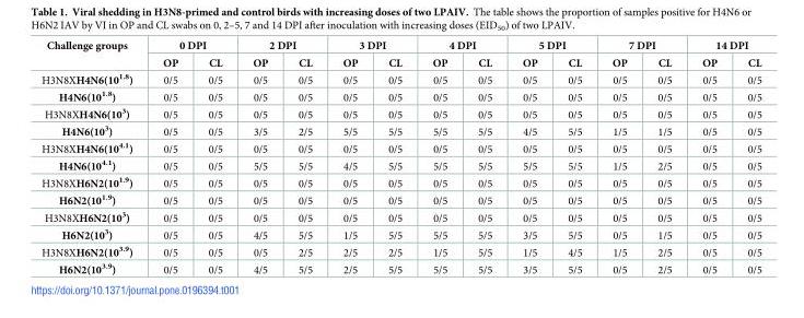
<table><thead><tr><td rowspan="2">Challenge groups</td><td colspan="2">0 DPI</td><td colspan="2">2 DPI</td><td colspan="2">3 DPI</td><td colspan="2">4 DPI</td><td colspan="2">5 DPI</td><td colspan="2">7 DPI</td><td colspan="2">14 DPI</td></tr><tr><td>OP</td><td>CL</td><td>OP</td><td>CL</td><td>OP</td><td>CL</td><td>OP</td><td>CL</td><td>OP</td><td>CL</td><td>OP</td><td>CL</td><td>OP</td><td>CL</td></tr></thead><tbody><tr><td>H3N8XH4N6(10<sup>1.8</sup>)</td><td>0/5</td><td>0/5</td><td>0/5</td><td>0/5</td><td>0/5</td><td>0/5</td><td>0/5</td><td>0/5</td><td>0/5</td><td>0/5</td><td>0/5</td><td>0/5</td><td>0/5</td><td>0/5</td></tr><tr><td>H4N6(10<sup>1.8</sup>)</td><td>0/5</td><td>0/5</td><td>0/5</td><td>0/5</td><td>0/5</td><td>0/5</td><td>0/5</td><td>0/5</td><td>0/5</td><td>0/5</td><td>0/5</td><td>0/5</td><td>0/5</td><td>0/5</td></tr><tr><td>H3N8XH4N6(10<sup>3</sup>)</td><td>0/5</td><td>0/5</td><td>0/5</td><td>0/5</td><td>0/5</td><td>0/5</td><td>0/5</td><td>0/5</td><td>0/5</td><td>0/5</td><td>0/5</td><td>0/5</td><td>0/5</td><td>0/5</td></tr><tr><td>H4N6(10<sup>3</sup>)</td><td>0/5</td><td>0/5</td><td>3/5</td><td>2/5</td><td>5/5</td><td>5/5</td><td>5/5</td><td>5/5</td><td>4/5</td><td>5/5</td><td>1/5</td><td>1/5</td><td>0/5</td><td>0/5</td></tr><tr><td>H3N8XH4N6(10<sup>4.1</sup>)</td><td>0/5</td><td>0/5</td><td>0/5</td><td>0/5</td><td>0/5</td><td>0/5</td><td>0/5</td><td>0/5</td><td>0/5</td><td>0/5</td><td>0/5</td><td>0/5</td><td>0/5</td><td>0/5</td></tr><tr><td>H4N6(10<sup>4.1</sup>)</td><td>0/5</td><td>0/5</td><td>5/5</td><td>5/5</td><td>4/5</td><td>5/5</td><td>5/5</td><td>5/5</td><td>5/5</td><td>5/5</td><td>1/5</td><td>2/5</td><td>0/5</td><td>0/5</td></tr><tr><td>H3N8XH6N2(10<sup>1.9</sup>)</td><td>0/5</td><td>0/5</td><td>0/5</td><td>0/5</td><td>0/5</td><td>0/5</td><td>0/5</td><td>0/5</td><td>0/5</td><td>0/5</td><td>0/5</td><td>0/5</td><td>0/5</td><td>0/5</td></tr><tr><td>H6N2(10<sup>1.9</sup>)</td><td>0/5</td><td>0/5</td><td>0/5</td><td>0/5</td><td>0/5</td><td>0/5</td><td>0/5</td><td>0/5</td><td>0/5</td><td>0/5</td><td>0/5</td><td>0/5</td><td>0/5</td><td>0/5</td></tr><tr><td>H3N8XH6N2(10<sup>3</sup>)</td><td>0/5</td><td>0/5</td><td>0/5</td><td>0/5</td><td>0/5</td><td>0/5</td><td>0/5</td><td>0/5</td><td>0/5</td><td>0/5</td><td>0/5</td><td>0/5</td><td>0/5</td><td>0/5</td></tr><tr><td>H6N2(10<sup>3</sup>)</td><td>0/5</td><td>0/5</td><td>4/5</td><td>5/5</td><td>1/5</td><td>5/5</td><td>5/5</td><td>5/5</td><td>3/5</td><td>5/5</td><td>0/5</td><td>1/5</td><td>0/5</td><td>0/5</td></tr><tr><td>H3N8XH6N2(10<sup>3.9</sup>)</td><td>0/5</td><td>0/5</td><td>0/5</td><td>2/5</td><td>2/5</td><td>2/5</td><td>1/5</td><td>5/5</td><td>1/5</td><td>4/5</td><td>1/5</td><td>2/5</td><td>0/5</td><td>0/5</td></tr><tr><td>H6N2(10<sup>3.9</sup>)</td><td>0/5</td><td>0/5</td><td>4/5</td><td>5/5</td><td>2/5</td><td>5/5</td><td>5/5</td><td>5/5</td><td>3/5</td><td>5/5</td><td>0/5</td><td>2/5</td><td>0/5</td><td>0/5</td></tr></tbody></table>